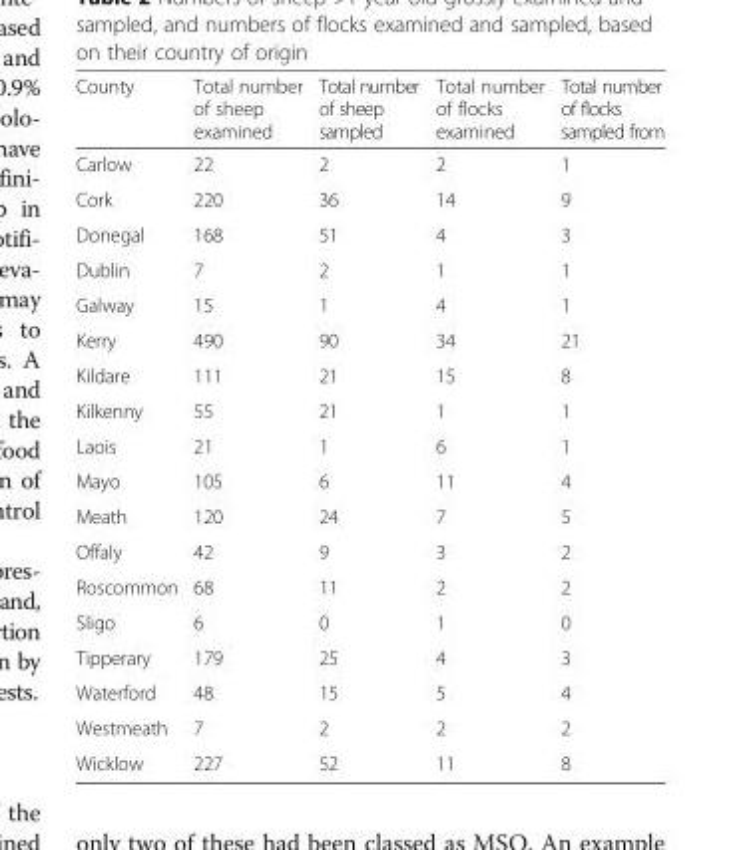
<table><thead><tr><td>County</td><td>Total number of sheep examined</td><td>Total number of sheep sampled</td><td>Total number of flocks examined</td><td>Total number of flocks sampled from</td></tr></thead><tbody><tr><td>Carlow</td><td>22</td><td>2</td><td>2</td><td>1</td></tr><tr><td>Cork</td><td>220</td><td>36</td><td>14</td><td>9</td></tr><tr><td>Donegal</td><td>168</td><td>51</td><td>4</td><td>3</td></tr><tr><td>Dublin</td><td>7</td><td>2</td><td>1</td><td>1</td></tr><tr><td>Galway</td><td>15</td><td>1</td><td>4</td><td>1</td></tr><tr><td>Kerry</td><td>490</td><td>90</td><td>34</td><td>21</td></tr><tr><td>Kildare</td><td>111</td><td>21</td><td>15</td><td>8</td></tr><tr><td>Kilkenny</td><td>55</td><td>21</td><td>1</td><td>1</td></tr><tr><td>Laois</td><td>21</td><td>1</td><td>6</td><td>1</td></tr><tr><td>Mayo</td><td>105</td><td>6</td><td>11</td><td>4</td></tr><tr><td>Meath</td><td>120</td><td>24</td><td>7</td><td>5</td></tr><tr><td>Offaly</td><td>42</td><td>9</td><td>3</td><td>2</td></tr><tr><td>Roscommon</td><td>68</td><td>11</td><td>2</td><td>2</td></tr><tr><td>Sligo</td><td>6</td><td>0</td><td>1</td><td>0</td></tr><tr><td>Tipperary</td><td>179</td><td>25</td><td>4</td><td>3</td></tr><tr><td>Waterford</td><td>48</td><td>15</td><td>5</td><td>4</td></tr><tr><td>Westmeath</td><td>7</td><td>2</td><td>2</td><td>2</td></tr><tr><td>Wicklow</td><td>227</td><td>52</td><td>11</td><td>8</td></tr></tbody></table>